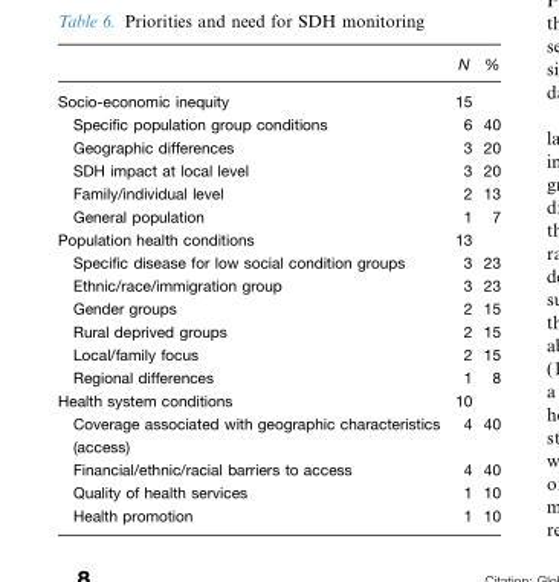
<table><thead><tr><td></td><td>N</td><td>%</td></tr></thead><tbody><tr><td>Socio-economic inequity</td><td>15</td><td></td></tr><tr><td>Specific population group conditions</td><td>6</td><td>40</td></tr><tr><td>Geographic differences</td><td>3</td><td>20</td></tr><tr><td>SDH impact at local level</td><td>3</td><td>20</td></tr><tr><td>Family/individual level</td><td>2</td><td>13</td></tr><tr><td>General population</td><td>1</td><td>7</td></tr><tr><td>Population health conditions</td><td>13</td><td></td></tr><tr><td>Specific disease for low social condition groups</td><td>3</td><td>23</td></tr><tr><td>Ethnic/race/immigration group</td><td>3</td><td>23</td></tr><tr><td>Gender groups</td><td>2</td><td>15</td></tr><tr><td>Rural deprived groups</td><td>2</td><td>15</td></tr><tr><td>Local/family focus</td><td>2</td><td>15</td></tr><tr><td>Regional differences</td><td>1</td><td>8</td></tr><tr><td>Health system conditions</td><td>10</td><td></td></tr><tr><td>Coverage associated with geographic characteristics (access)</td><td>4</td><td>40</td></tr><tr><td>Financial/ethnic/racial barriers to access</td><td>4</td><td>40</td></tr><tr><td>Quality of health services</td><td>1</td><td>10</td></tr><tr><td>Health promotion</td><td>1</td><td>10</td></tr></tbody></table>